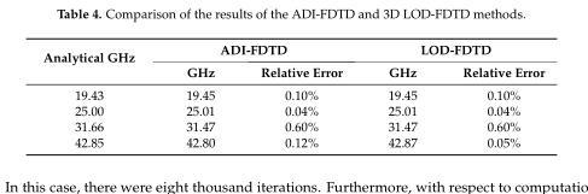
<table><thead><tr><td rowspan="2">Analytical GHz</td><td colspan="2">ADI-FDTD</td><td colspan="2">LOD-FDTD</td></tr><tr><td>GHz</td><td>Relative Error</td><td>GHz</td><td>Relative Error</td></tr></thead><tbody><tr><td>19.43</td><td>19.45</td><td>0.10%</td><td>19.45</td><td>0.10%</td></tr><tr><td>25.00</td><td>25.01</td><td>0.04%</td><td>25.01</td><td>0.04%</td></tr><tr><td>31.66</td><td>31.47</td><td>0.60%</td><td>31.47</td><td>0.60%</td></tr><tr><td>42.85</td><td>42.80</td><td>0.12%</td><td>42.87</td><td>0.05%</td></tr></tbody></table>